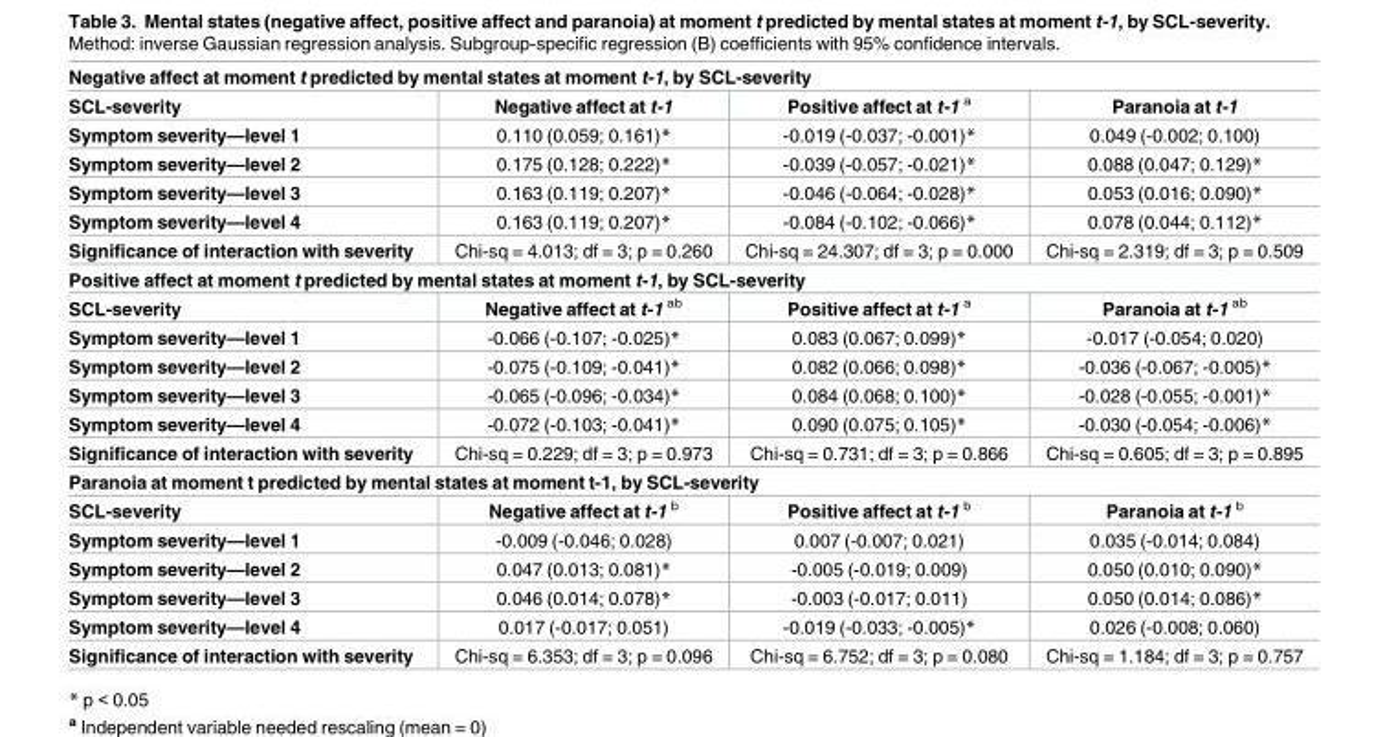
<table><tbody><tr><td colspan="4">Negative affect at moment t predicted by mental states at moment t-1, by SCL-severity</td></tr><tr><td>SCL-severity</td><td>Negative affect at t-1</td><td>Positive affect at t-1 <sup>a</sup></td><td>Paranoia at t-1</td></tr><tr><td>Symptom severity—level 1</td><td>0.110 (0.059; 0.161)*</td><td>-0.019 (-0.037; -0.001)*</td><td>0.049 (-0.002; 0.100)</td></tr><tr><td>Symptom severity—level 2</td><td>0.175 (0.128; 0.222)*</td><td>-0.039 (-0.057; -0.021)*</td><td>0.088 (0.047; 0.129)*</td></tr><tr><td>Symptom severity—level 3</td><td>0.163 (0.119; 0.207)*</td><td>-0.046 (-0.064; -0.028)*</td><td>0.053 (0.016; 0.090)*</td></tr><tr><td>Symptom severity—level 4</td><td>0.163 (0.119; 0.207)*</td><td>-0.084 (-0.102; -0.066)*</td><td>0.078 (0.044; 0.112)*</td></tr><tr><td>Significance of interaction with severity</td><td>Chi-sq = 4.013; df = 3; p = 0.260</td><td>Chi-sq = 24.307; df = 3; p = 0.000</td><td>Chi-sq = 2.319; df = 3; p = 0.509</td></tr><tr><td colspan="4">Positive affect at moment t predicted by mental states at moment t-1, by SCL-severity</td></tr><tr><td>SCL-severity</td><td>Negative affect at t-1 <sup>ab</sup></td><td>Positive affect at t-1 <sup>a</sup></td><td>Paranoia at t-1 <sup>ab</sup></td></tr><tr><td>Symptom severity—level 1</td><td>-0.066 (-0.107; -0.025)*</td><td>0.083 (0.067; 0.099)*</td><td>-0.017 (-0.054; 0.020)</td></tr><tr><td>Symptom severity—level 2</td><td>-0.075 (-0.109; -0.041)*</td><td>0.082 (0.066; 0.098)*</td><td>-0.036 (-0.067; -0.005)*</td></tr><tr><td>Symptom severity—level 3</td><td>-0.065 (-0.096; -0.034)*</td><td>0.084 (0.068; 0.100)*</td><td>-0.028 (-0.055; -0.001)*</td></tr><tr><td>Symptom severity—level 4</td><td>-0.072 (-0.103; -0.041)*</td><td>0.090 (0.075; 0.105)*</td><td>-0.030 (-0.054; -0.006)*</td></tr><tr><td>Significance of interaction with severity</td><td>Chi-sq = 0.229; df = 3; p = 0.973</td><td>Chi-sq = 0.731; df = 3; p = 0.866</td><td>Chi-sq = 0.605; df = 3; p = 0.895</td></tr><tr><td colspan="4">Paranoia at moment t predicted by mental states at moment t-1, by SCL-severity</td></tr><tr><td>SCL-severity</td><td>Negative affect at t-1 <sup>b</sup></td><td>Positive affect at t-1 <sup>b</sup></td><td>Paranoia at t-1 <sup>b</sup></td></tr><tr><td>Symptom severity—level 1</td><td>-0.009 (-0.046; 0.028)</td><td>0.007 (-0.007; 0.021)</td><td>0.035 (-0.014; 0.084)</td></tr><tr><td>Symptom severity—level 2</td><td>0.047 (0.013; 0.081)*</td><td>-0.005 (-0.019; 0.009)</td><td>0.050 (0.010; 0.090)*</td></tr><tr><td>Symptom severity—level 3</td><td>0.046 (0.014; 0.078)*</td><td>-0.003 (-0.017; 0.011)</td><td>0.050 (0.014; 0.086)*</td></tr><tr><td>Symptom severity—level 4</td><td>0.017 (-0.017; 0.051)</td><td>-0.019 (-0.033; -0.005)*</td><td>0.026 (-0.008; 0.060)</td></tr><tr><td>Significance of interaction with severity</td><td>Chi-sq = 6.353; df = 3; p = 0.096</td><td>Chi-sq = 6.752; df = 3; p = 0.080</td><td>Chi-sq = 1.184; df = 3; p = 0.757</td></tr></tbody></table>